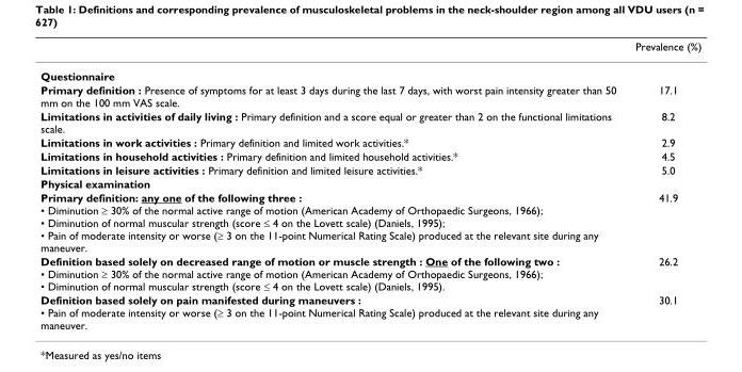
<table><thead><tr><td></td><td>Prevalence (%)</td></tr></thead><tbody><tr><td colspan="2">Questionnaire</td></tr><tr><td>Primary definition : Presence of symptoms for at least 3 days during the last 7 days, with worst pain intensity greater than 50 mm on the 100 mm VAS scale.</td><td>17.1</td></tr><tr><td>Limitations in activities of daily living : Primary definition and a score equal or greater than 2 on the functional limitations scale.</td><td>8.2</td></tr><tr><td>Limitations in work activities : Primary definition and limited work activities.*</td><td>2.9</td></tr><tr><td>Limitations in household activities : Primary definition and limited household activities.*</td><td>4.5</td></tr><tr><td>Limitations in leisure activities : Primary definition and limited leisure activities.*</td><td>5.0</td></tr><tr><td colspan="2">Physical examination</td></tr><tr><td>Primary definition: any one of the following three : • Diminution ≥ 30% of the normal active range of motion (American Academy of Orthopaedic Surgeons, 1966); • Diminution of normal muscular strength (score ≤ 4 on the Lovett scale) (Daniels, 1995); • Pain of moderate intensity or worse (≥ 3 on the 11-point Numerical Rating Scale) produced at the relevant site during any maneuver.</td><td>41.9</td></tr><tr><td>Definition based solely on decreased range of motion or muscle strength : One of the following two : • Diminution ≥ 30% of the normal active range of motion (American Academy of Orthopaedic Surgeons, 1966); • Diminution of normal muscular strength (score ≤ 4 on the Lovett scale) (Daniels, 1995).</td><td>26.2</td></tr><tr><td>Definition based solely on pain manifested during maneuvers : • Pain of moderate intensity or worse (≥ 3 on the 11-point Numerical Rating Scale) produced at the relevant site during any maneuver.</td><td>30.1</td></tr></tbody></table>